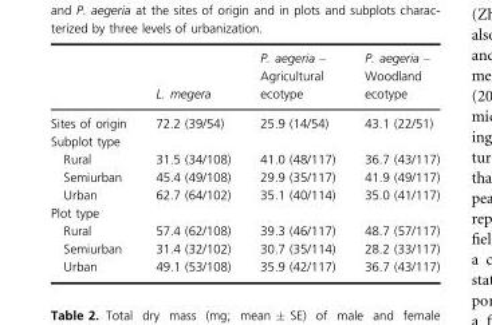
<table><thead><tr><td></td><td>L. megera</td><td>P. aegeria – Agricultural ecotype</td><td>P. aegeria – Woodland ecotype</td></tr></thead><tbody><tr><td>Sites of origin</td><td>72.2 (39/54)</td><td>25.9 (14/54)</td><td>43.1 (22/51)</td></tr><tr><td colspan="4">Subplot type</td></tr><tr><td>Rural</td><td>31.5 (34/108)</td><td>41.0 (48/117)</td><td>36.7 (43/117)</td></tr><tr><td>Semiurban</td><td>45.4 (49/108)</td><td>29.9 (35/117)</td><td>41.9 (49/117)</td></tr><tr><td>Urban</td><td>62.7 (64/102)</td><td>35.1 (40/114)</td><td>35.0 (41/117)</td></tr><tr><td colspan="4">Plot type</td></tr><tr><td>Rural</td><td>57.4 (62/108)</td><td>39.3 (46/117)</td><td>48.7 (57/117)</td></tr><tr><td>Semiurban</td><td>31.4 (32/102)</td><td>30.7 (35/114)</td><td>28.2 (33/117)</td></tr><tr><td>Urban</td><td>49.1 (53/108)</td><td>35.9 (42/117)</td><td>36.7 (43/117)</td></tr></tbody></table>